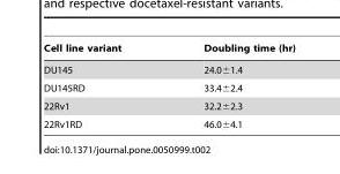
<table><thead><tr><td>Cell line variant</td><td>Doubling time (hr)</td></tr></thead><tbody><tr><td>DU145</td><td>24.0±1.4</td></tr><tr><td>DU145RD</td><td>33.4±2.4</td></tr><tr><td>22Rv1</td><td>32.2±2.3</td></tr><tr><td>22Rv1RD</td><td>46.0±4.1</td></tr></tbody></table>